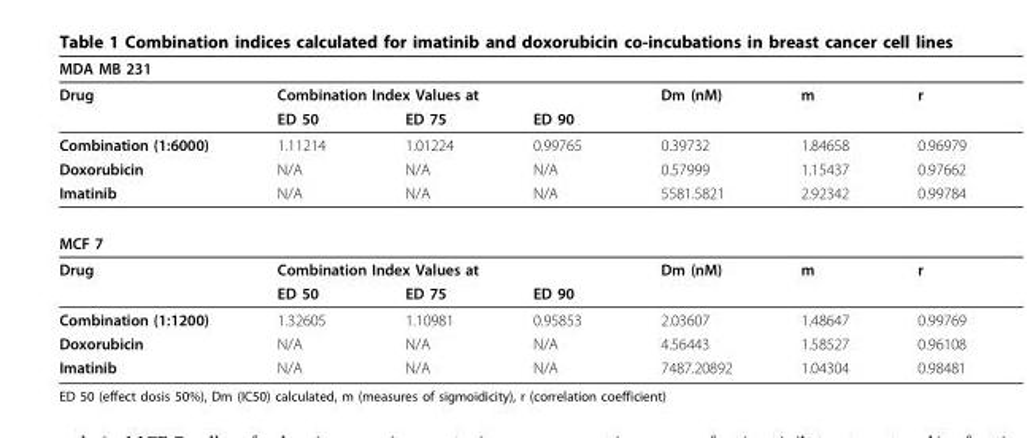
<table><thead><tr><td colspan="7">MDA MB 231</td></tr><tr><td rowspan="2">Drug</td><td colspan="3">Combination Index Values at</td><td rowspan="2">Dm (nM)</td><td rowspan="2">m</td><td rowspan="2">r</td></tr><tr><td>ED 50</td><td>ED 75</td><td>ED 90</td></tr></thead><tbody><tr><td>Combination (1:6000)</td><td>1.11214</td><td>1.01224</td><td>0.99765</td><td>0.39732</td><td>1.84658</td><td>0.96979</td></tr><tr><td>Doxorubicin</td><td>N/A</td><td>N/A</td><td>N/A</td><td>0.57999</td><td>1.15437</td><td>0.97662</td></tr><tr><td>Imatinib</td><td>N/A</td><td>N/A</td><td>N/A</td><td>5581.5821</td><td>2.92342</td><td>0.99784</td></tr><tr><td colspan="7">MCF 7</td></tr><tr><td rowspan="2">Drug</td><td colspan="3">Combination Index Values at</td><td>Dm (nM)</td><td>m</td><td>r</td></tr><tr><td>ED 50</td><td>ED 75</td><td>ED 90</td><td></td><td></td><td></td></tr><tr><td>Combination (1:1200)</td><td>1.32605</td><td>1.10981</td><td>0.95853</td><td>2.03607</td><td>1.48647</td><td>0.99769</td></tr><tr><td>Doxorubicin</td><td>N/A</td><td>N/A</td><td>N/A</td><td>4.56443</td><td>1.58527</td><td>0.96108</td></tr><tr><td>Imatinib</td><td>N/A</td><td>N/A</td><td>N/A</td><td>7487.20892</td><td>1.04304</td><td>0.98481</td></tr></tbody></table>